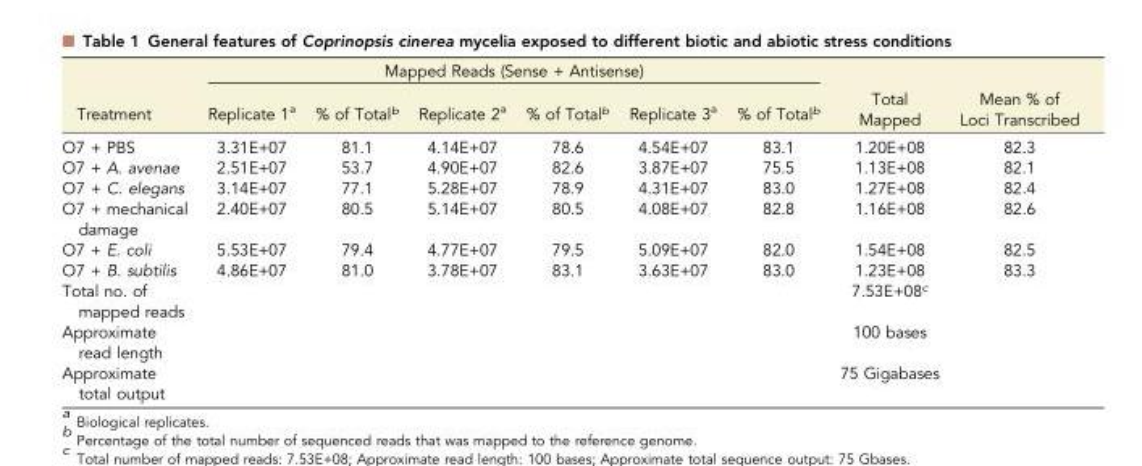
<table><thead><tr><td rowspan="2">Treatment</td><td colspan="6">Mapped Reads (Sense + Antisense)</td><td rowspan="2">Total Mapped</td><td rowspan="2">Mean % of Loci Transcribed</td></tr><tr><td>Replicate 1<sup>a</sup></td><td>% of Total<sup>b</sup></td><td>Replicate 2<sup>a</sup></td><td>% of Total<sup>b</sup></td><td>Replicate 3<sup>a</sup></td><td>% of Total<sup>b</sup></td></tr></thead><tbody><tr><td>O7 + PBS</td><td>3.31E+07</td><td>81.1</td><td>4.14E+07</td><td>78.6</td><td>4.54E+07</td><td>83.1</td><td>1.20E+08</td><td>82.3</td></tr><tr><td>O7 + A. avenae</td><td>2.51E+07</td><td>53.7</td><td>4.90E+07</td><td>82.6</td><td>3.87E+07</td><td>75.5</td><td>1.13E+08</td><td>82.1</td></tr><tr><td>O7 + C. elegans</td><td>3.14E+07</td><td>77.1</td><td>5.28E+07</td><td>78.9</td><td>4.31E+07</td><td>83.0</td><td>1.27E+08</td><td>82.4</td></tr><tr><td>O7 + mechanical damage</td><td>2.40E+07</td><td>80.5</td><td>5.14E+07</td><td>80.5</td><td>4.08E+07</td><td>82.8</td><td>1.16E+08</td><td>82.6</td></tr><tr><td>O7 + E. coli</td><td>5.53E+07</td><td>79.4</td><td>4.77E+07</td><td>79.5</td><td>5.09E+07</td><td>82.0</td><td>1.54E+08</td><td>82.5</td></tr><tr><td>O7 + B. subtilis</td><td>4.86E+07</td><td>81.0</td><td>3.78E+07</td><td>83.1</td><td>3.63E+07</td><td>83.0</td><td>1.23E+08</td><td>83.3</td></tr><tr><td>Total no. of mapped reads</td><td></td><td></td><td></td><td></td><td></td><td></td><td>7.53E+08<sup>c</sup></td><td></td></tr><tr><td>Approximate read length</td><td></td><td></td><td></td><td></td><td></td><td></td><td>100 bases</td><td></td></tr><tr><td>Approximate total output</td><td></td><td></td><td></td><td></td><td></td><td></td><td>75 Gigabases</td><td></td></tr></tbody></table>